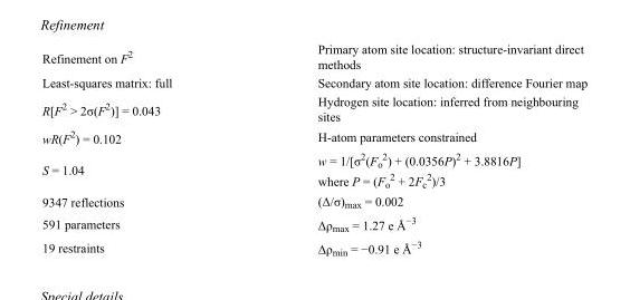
<table><tbody><tr><td>Refinement on F<sup>2</sup></td><td>Primary atom site location: structure-invariant direct methods</td></tr><tr><td>Least-squares matrix: full</td><td>Secondary atom site location: difference Fourier map</td></tr><tr><td>R[F<sup>2</sup> &gt; 2σ(F<sup>2</sup>)] = 0.043</td><td>Hydrogen site location: inferred from neighbouring sites</td></tr><tr><td>wR(F<sup>2</sup>) = 0.102</td><td>H-atom parameters constrained</td></tr><tr><td>S = 1.04</td><td>w = 1/[σ<sup>2</sup>(F<sub>o</sub> <sup>2</sup>) + (0.0356P)<sup>2</sup> + 3.8816P] where P = (F<sub>o</sub> <sup>2</sup> + 2F<sub>c</sub> <sup>2</sup>)/3</td></tr><tr><td>9347 reflections</td><td>(Δ/σ)<sub>max</sub> = 0.002</td></tr><tr><td>591 parameters</td><td>Δρ<sub>max</sub> = 1.27 e Å<sup>−3</sup></td></tr><tr><td>19 restraints</td><td>Δρ<sub>min</sub> = −0.91 e Å<sup>−3</sup></td></tr></tbody></table>